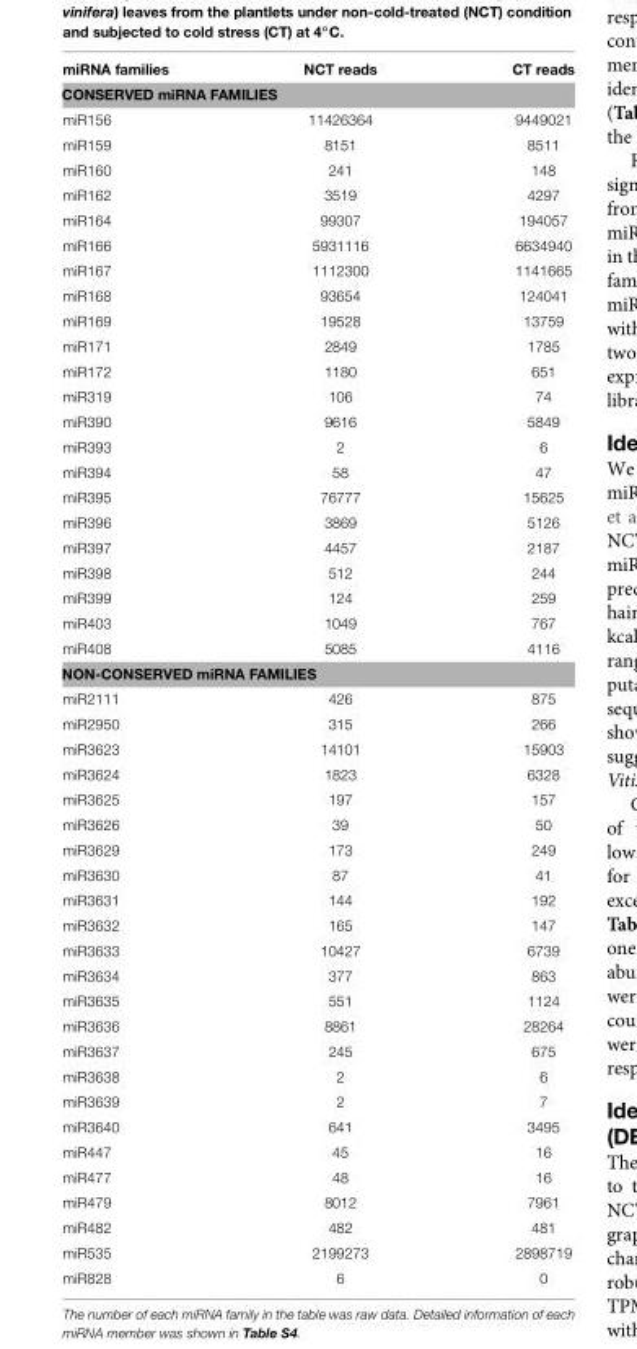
<table><thead><tr><td>miRNA families</td><td>NCT reads</td><td>CT reads</td></tr></thead><tbody><tr><td colspan="3">CONSERVED miRNA FAMILIES</td></tr><tr><td>miR156</td><td>11426364</td><td>9449021</td></tr><tr><td>miR159</td><td>8151</td><td>8511</td></tr><tr><td>miR160</td><td>241</td><td>148</td></tr><tr><td>miR162</td><td>3519</td><td>4297</td></tr><tr><td>miR164</td><td>99307</td><td>194057</td></tr><tr><td>miR166</td><td>5931116</td><td>6634940</td></tr><tr><td>miR167</td><td>1112300</td><td>1141665</td></tr><tr><td>miR168</td><td>93654</td><td>124041</td></tr><tr><td>miR169</td><td>19528</td><td>13759</td></tr><tr><td>miR171</td><td>2849</td><td>1785</td></tr><tr><td>miR172</td><td>1180</td><td>651</td></tr><tr><td>miR319</td><td>106</td><td>74</td></tr><tr><td>miR390</td><td>9616</td><td>5849</td></tr><tr><td>miR393</td><td>2</td><td>6</td></tr><tr><td>miR394</td><td>58</td><td>47</td></tr><tr><td>miR395</td><td>76777</td><td>15625</td></tr><tr><td>miR396</td><td>3869</td><td>5126</td></tr><tr><td>miR397</td><td>4457</td><td>2187</td></tr><tr><td>miR398</td><td>512</td><td>244</td></tr><tr><td>miR399</td><td>124</td><td>259</td></tr><tr><td>miR403</td><td>1049</td><td>767</td></tr><tr><td>miR408</td><td>5085</td><td>4116</td></tr><tr><td colspan="3">NON-CONSERVED miRNA FAMILIES</td></tr><tr><td>miR2111</td><td>426</td><td>875</td></tr><tr><td>miR2950</td><td>315</td><td>266</td></tr><tr><td>miR3623</td><td>14101</td><td>15903</td></tr><tr><td>miR3624</td><td>1823</td><td>6328</td></tr><tr><td>miR3625</td><td>197</td><td>157</td></tr><tr><td>miR3626</td><td>39</td><td>50</td></tr><tr><td>miR3629</td><td>173</td><td>249</td></tr><tr><td>miR3630</td><td>87</td><td>41</td></tr><tr><td>miR3631</td><td>144</td><td>192</td></tr><tr><td>miR3632</td><td>165</td><td>147</td></tr><tr><td>miR3633</td><td>10427</td><td>6739</td></tr><tr><td>miR3634</td><td>377</td><td>863</td></tr><tr><td>miR3635</td><td>551</td><td>1124</td></tr><tr><td>miR3636</td><td>8861</td><td>28264</td></tr><tr><td>miR3637</td><td>245</td><td>675</td></tr><tr><td>miR3638</td><td>2</td><td>6</td></tr><tr><td>miR3639</td><td>2</td><td>7</td></tr><tr><td>miR3640</td><td>641</td><td>3495</td></tr><tr><td>miR447</td><td>45</td><td>16</td></tr><tr><td>miR477</td><td>48</td><td>16</td></tr><tr><td>miR479</td><td>8012</td><td>7961</td></tr><tr><td>miR482</td><td>482</td><td>481</td></tr><tr><td>miR535</td><td>2199273</td><td>2898719</td></tr><tr><td>miR828</td><td>6</td><td>0</td></tr></tbody></table>